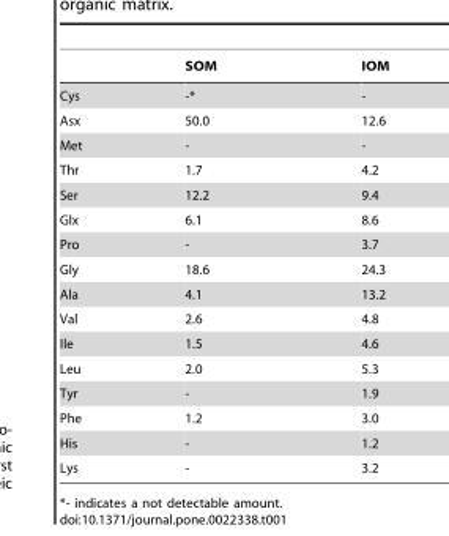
<table><thead><tr><td></td><td>SOM</td><td>IOM</td></tr></thead><tbody><tr><td>Cys</td><td>-*</td><td>-</td></tr><tr><td>Asx</td><td>50.0</td><td>12.6</td></tr><tr><td>Met</td><td>-</td><td>-</td></tr><tr><td>Thr</td><td>1.7</td><td>4.2</td></tr><tr><td>Ser</td><td>12.2</td><td>9.4</td></tr><tr><td>Glx</td><td>6.1</td><td>8.6</td></tr><tr><td>Pro</td><td>-</td><td>3.7</td></tr><tr><td>Gly</td><td>18.6</td><td>24.3</td></tr><tr><td>Ala</td><td>4.1</td><td>13.2</td></tr><tr><td>Val</td><td>2.6</td><td>4.8</td></tr><tr><td>Ile</td><td>1.5</td><td>4.6</td></tr><tr><td>Leu</td><td>2.0</td><td>5.3</td></tr><tr><td>Tyr</td><td>-</td><td>1.9</td></tr><tr><td>Phe</td><td>1.2</td><td>3.0</td></tr><tr><td>His</td><td>-</td><td>1.2</td></tr><tr><td>Lys</td><td>-</td><td>3.2</td></tr></tbody></table>